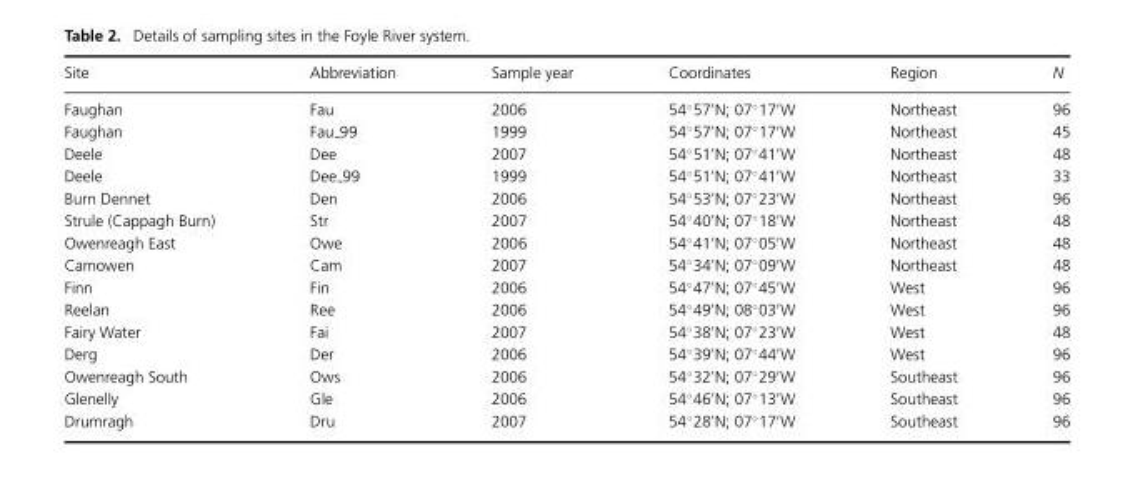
<table><thead><tr><td>Site</td><td>Abbreviation</td><td>Sample year</td><td>Coordinates</td><td>Region</td><td>N</td></tr></thead><tbody><tr><td>Faughan</td><td>Fau</td><td>2006</td><td>54◦57′N; 07◦17′W</td><td>Northeast</td><td>96</td></tr><tr><td>Faughan</td><td>Fau 99</td><td>1999</td><td>54◦57′N; 07◦17′W</td><td>Northeast</td><td>45</td></tr><tr><td>Deele</td><td>Dee</td><td>2007</td><td>54◦51′N; 07◦41′W</td><td>Northeast</td><td>48</td></tr><tr><td>Deele</td><td>Dee 99</td><td>1999</td><td>54◦51′N; 07◦41′W</td><td>Northeast</td><td>33</td></tr><tr><td>Burn Dennet</td><td>Den</td><td>2006</td><td>54◦53′N; 07◦23′W</td><td>Northeast</td><td>96</td></tr><tr><td>Strule (Cappagh Burn)</td><td>Str</td><td>2007</td><td>54◦40′N; 07◦18′W</td><td>Northeast</td><td>48</td></tr><tr><td>Owenreagh East</td><td>Owe</td><td>2006</td><td>54◦41′N; 07◦05′W</td><td>Northeast</td><td>48</td></tr><tr><td>Camowen</td><td>Cam</td><td>2007</td><td>54◦34′N; 07◦09′W</td><td>Northeast</td><td>48</td></tr><tr><td>Finn</td><td>Fin</td><td>2006</td><td>54◦47′N; 07◦45′W</td><td>West</td><td>96</td></tr><tr><td>Reelan</td><td>Ree</td><td>2006</td><td>54◦49′N; 08◦03′W</td><td>West</td><td>96</td></tr><tr><td>Fairy Water</td><td>Fai</td><td>2007</td><td>54◦38′N; 07◦23′W</td><td>West</td><td>48</td></tr><tr><td>Derg</td><td>Der</td><td>2006</td><td>54◦39′N; 07◦44′W</td><td>West</td><td>96</td></tr><tr><td>Owenreagh South</td><td>Ows</td><td>2006</td><td>54◦32′N; 07◦29′W</td><td>Southeast</td><td>96</td></tr><tr><td>Glenelly</td><td>Gle</td><td>2006</td><td>54◦46′N; 07◦13′W</td><td>Southeast</td><td>96</td></tr><tr><td>Drumragh</td><td>Dru</td><td>2007</td><td>54◦28′N; 07◦17′W</td><td>Southeast</td><td>96</td></tr></tbody></table>